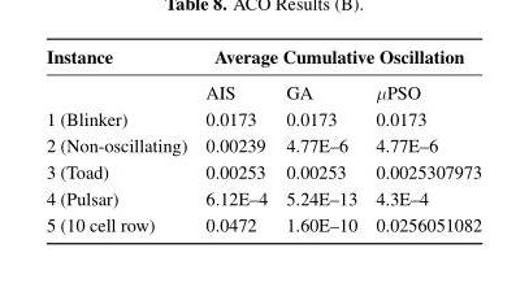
<table><thead><tr><td rowspan="2">Instance</td><td rowspan="2">Average AIS</td><td rowspan="2">Cumulative GA</td><td rowspan="2">Oscillation µPSO</td></tr><tr></tr></thead><tbody><tr><td>1 (Blinker)</td><td>0.0173</td><td>0.0173</td><td>0.0173</td></tr><tr><td>2 (Non-oscillating)</td><td>0.00239</td><td>4.77E–6</td><td>4.77E–6</td></tr><tr><td>3 (Toad)</td><td>0.00253</td><td>0.00253</td><td>0.0025307973</td></tr><tr><td>4 (Pulsar)</td><td>6.12E–4</td><td>5.24E–13</td><td>4.3E–4</td></tr><tr><td>5 (10 cell row)</td><td>0.0472</td><td>1.60E–10</td><td>0.0256051082</td></tr></tbody></table>